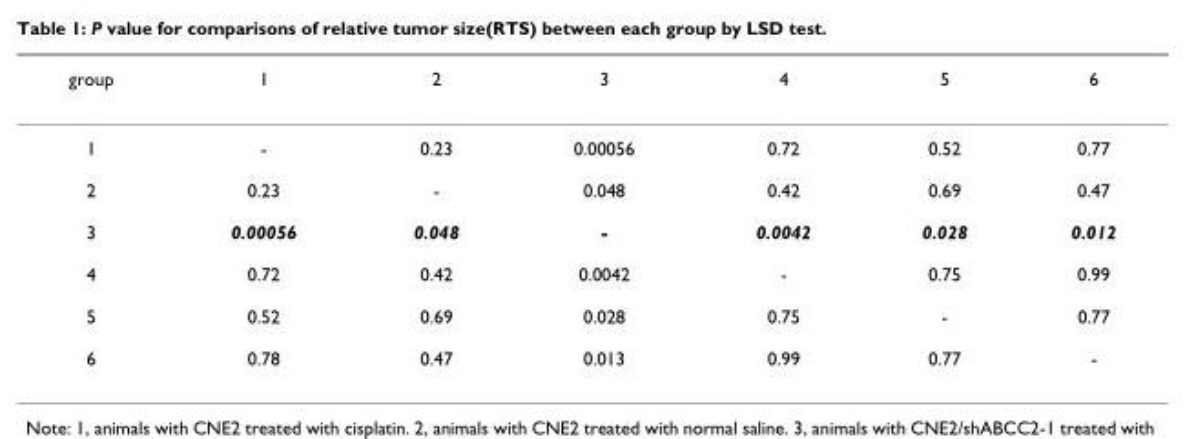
<table><thead><tr><td>group</td><td>1</td><td>2</td><td>3</td><td>4</td><td>5</td><td>6</td></tr></thead><tbody><tr><td>1</td><td>-</td><td>0.23</td><td>0.00056</td><td>0.72</td><td>0.52</td><td>0.77</td></tr><tr><td>2</td><td>0.23</td><td>-</td><td>0.048</td><td>0.42</td><td>0.69</td><td>0.47</td></tr><tr><td>3</td><td>0.00056</td><td>0.048</td><td>-</td><td>0.0042</td><td>0.028</td><td>0.012</td></tr><tr><td>4</td><td>0.72</td><td>0.42</td><td>0.0042</td><td>-</td><td>0.75</td><td>0.99</td></tr><tr><td>5</td><td>0.52</td><td>0.69</td><td>0.028</td><td>0.75</td><td>-</td><td>0.77</td></tr><tr><td>6</td><td>0.78</td><td>0.47</td><td>0.013</td><td>0.99</td><td>0.77</td><td>-</td></tr></tbody></table>